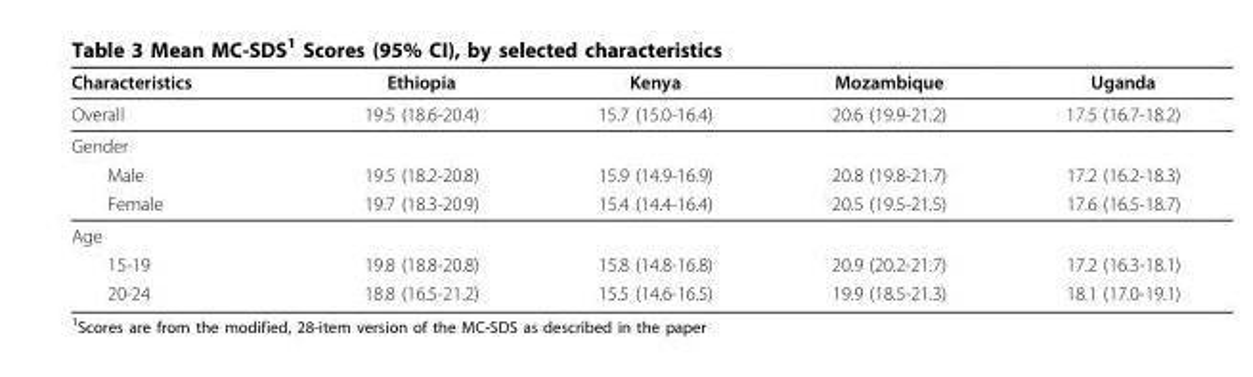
<table><thead><tr><td>Characteristics</td><td>Ethiopia</td><td>Kenya</td><td>Mozambique</td><td>Uganda</td></tr></thead><tbody><tr><td>Overall</td><td>19.5 (18.6-20.4)</td><td>15.7 (15.0-16.4)</td><td>20.6 (19.9-21.2)</td><td>17.5 (16.7-18.2)</td></tr><tr><td colspan="5">Gender</td></tr><tr><td>Male</td><td>19.5 (18.2-20.8)</td><td>15.9 (14.9-16.9)</td><td>20.8 (19.8-21.7)</td><td>17.2 (16.2-18.3)</td></tr><tr><td>Female</td><td>19.7 (18.3-20.9)</td><td>15.4 (14.4-16.4)</td><td>20.5 (19.5-21.5)</td><td>17.6 (16.5-18.7)</td></tr><tr><td colspan="5">Age</td></tr><tr><td>15-19</td><td>19.8 (18.8-20.8)</td><td>15.8 (14.8-16.8)</td><td>20.9 (20.2-21.7)</td><td>17.2 (16.3-18.1)</td></tr><tr><td>20-24</td><td>18.8 (16.5-21.2)</td><td>15.5 (14.6-16.5)</td><td>19.9 (18.5-21.3)</td><td>18.1 (17.0-19.1)</td></tr></tbody></table>